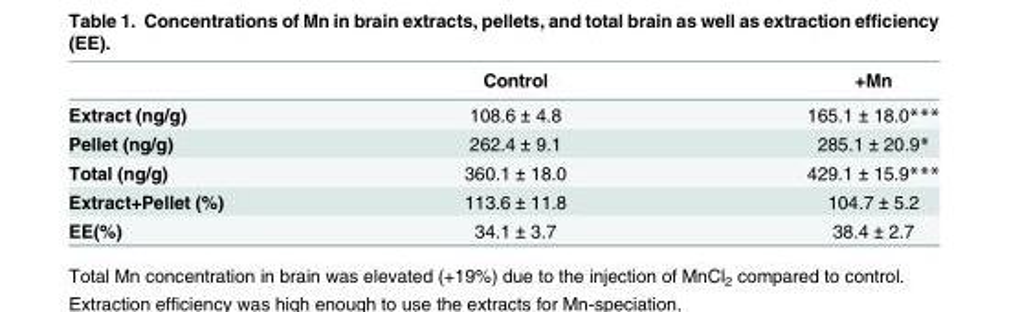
<table><thead><tr><td></td><td>Control</td><td>+Mn</td></tr></thead><tbody><tr><td>Extract (ng/g)</td><td>108.6 ± 4.8</td><td>165.1 ± 18.0***</td></tr><tr><td>Pellet (ng/g)</td><td>262.4 ± 9.1</td><td>285.1 ± 20.9*</td></tr><tr><td>Total (ng/g)</td><td>360.1 ± 18.0</td><td>429.1 ± 15.9***</td></tr><tr><td>Extract+Pellet (%)</td><td>113.6 ± 11.8</td><td>104.7 ± 5.2</td></tr><tr><td>EE(%)</td><td>34.1 ± 3.7</td><td>38.4 ± 2.7</td></tr></tbody></table>